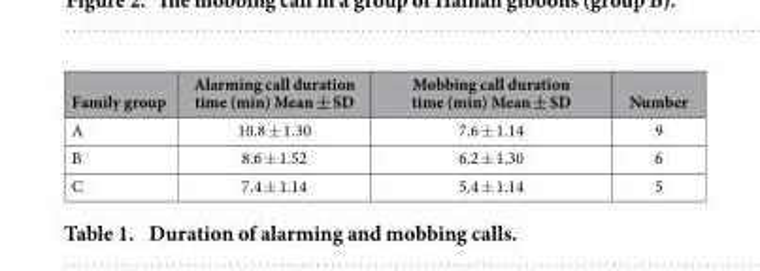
<table><thead><tr><td>Family group</td><td>Alarming call duration time (min) Mean ± SD</td><td>Mobbing call duration time (min) Mean ± SD</td><td>Number</td></tr></thead><tbody><tr><td>A</td><td>10.8 ± 1.30</td><td>7.6 ± 1.14</td><td>9</td></tr><tr><td>B</td><td>8.6 ± 1.52</td><td>6.2 ± 1.30</td><td>6</td></tr><tr><td>C</td><td>7.4 ± 1.14</td><td>5.4 ± 1.14</td><td>5</td></tr></tbody></table>